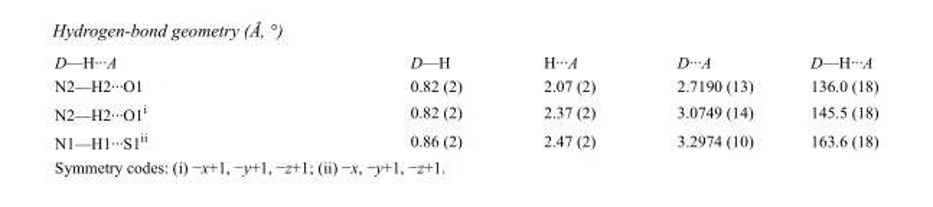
<table><tbody><tr><td>D—H···A</td><td>D—H</td><td>H···A</td><td>D···A</td><td>D—H···A</td></tr><tr><td>N2—H2···O1</td><td>0.82 (2)</td><td>2.07 (2)</td><td>2.7190 (13)</td><td>136.0 (18)</td></tr><tr><td>N2—H2···O1<sup>i</sup></td><td>0.82 (2)</td><td>2.37 (2)</td><td>3.0749 (14)</td><td>145.5 (18)</td></tr><tr><td>N1—H1···S1<sup>ii</sup></td><td>0.86 (2)</td><td>2.47 (2)</td><td>3.2974 (10)</td><td>163.6 (18)</td></tr></tbody></table>